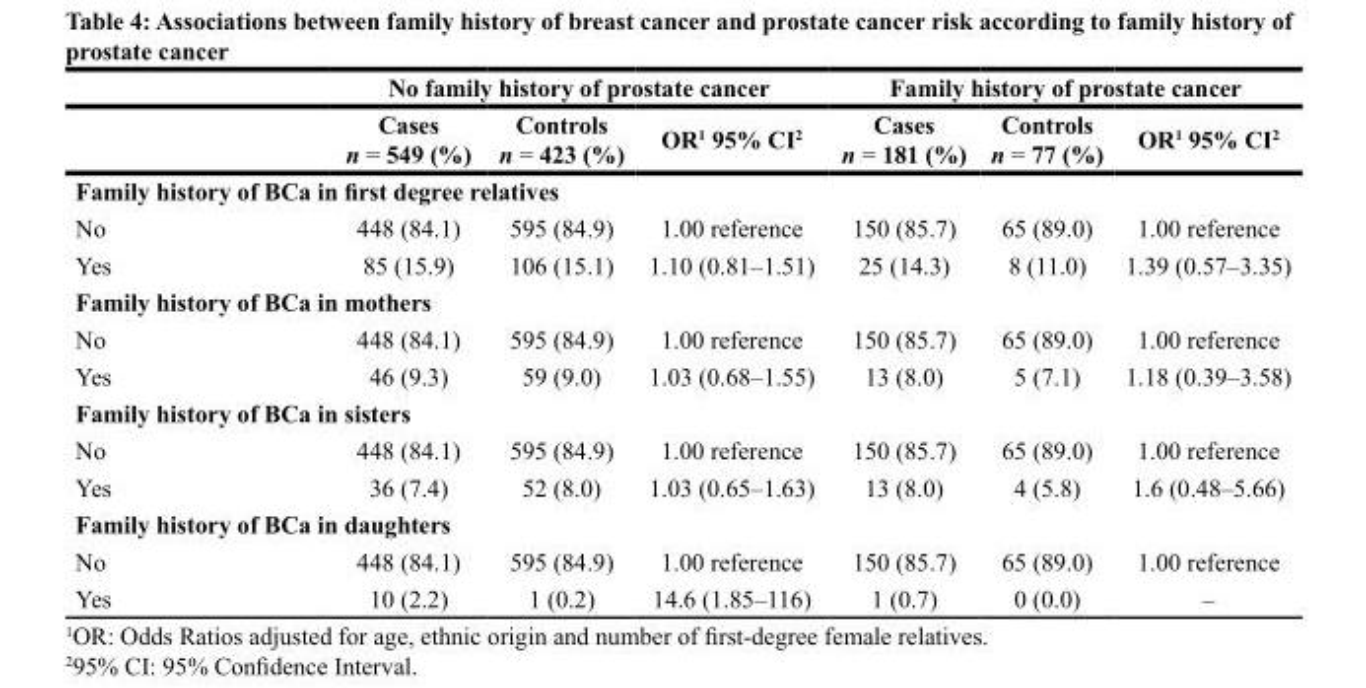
<table><thead><tr><td rowspan="2"></td><td colspan="3">No family history of prostate cancer</td><td colspan="3">Family history of prostate cancer</td></tr><tr><td>Cases n = 549 (%)</td><td>Controls n = 423 (%)</td><td>OR<sup>1</sup> 95% CI<sup>2</sup></td><td>Cases n = 181 (%)</td><td>Controls n = 77 (%)</td><td>OR<sup>1</sup> 95% CI<sup>2</sup></td></tr></thead><tbody><tr><td colspan="7">Family history of BCa in first degree relatives</td></tr><tr><td>No</td><td>448 (84.1)</td><td>595 (84.9)</td><td>1.00 reference</td><td>150 (85.7)</td><td>65 (89.0)</td><td>1.00 reference</td></tr><tr><td>Yes</td><td>85 (15.9)</td><td>106 (15.1)</td><td>1.10 (0.81–1.51)</td><td>25 (14.3)</td><td>8 (11.0)</td><td>1.39 (0.57–3.35)</td></tr><tr><td colspan="7">Family history of BCa in mothers</td></tr><tr><td>No</td><td>448 (84.1)</td><td>595 (84.9)</td><td>1.00 reference</td><td>150 (85.7)</td><td>65 (89.0)</td><td>1.00 reference</td></tr><tr><td>Yes</td><td>46 (9.3)</td><td>59 (9.0)</td><td>1.03 (0.68–1.55)</td><td>13 (8.0)</td><td>5 (7.1)</td><td>1.18 (0.39–3.58)</td></tr><tr><td colspan="7">Family history of BCa in sisters</td></tr><tr><td>No</td><td>448 (84.1)</td><td>595 (84.9)</td><td>1.00 reference</td><td>150 (85.7)</td><td>65 (89.0)</td><td>1.00 reference</td></tr><tr><td>Yes</td><td>36 (7.4)</td><td>52 (8.0)</td><td>1.03 (0.65–1.63)</td><td>13 (8.0)</td><td>4 (5.8)</td><td>1.6 (0.48–5.66)</td></tr><tr><td colspan="7">Family history of BCa in daughters</td></tr><tr><td>No</td><td>448 (84.1)</td><td>595 (84.9)</td><td>1.00 reference</td><td>150 (85.7)</td><td>65 (89.0)</td><td>1.00 reference</td></tr><tr><td>Yes</td><td>10 (2.2)</td><td>1 (0.2)</td><td>14.6 (1.85–116)</td><td>1 (0.7)</td><td>0 (0.0)</td><td>–</td></tr></tbody></table>